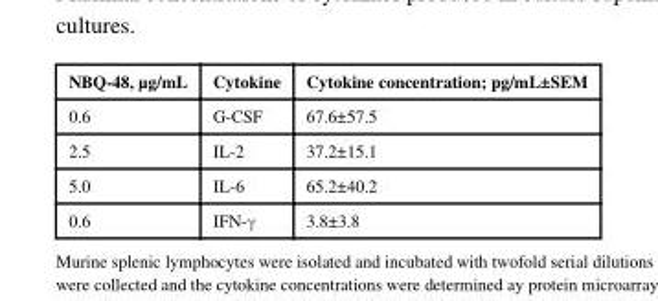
<table><thead><tr><td>NBQ-48, μg/mL</td><td>Cytokine</td><td>Cytokine concentration; pg/mL±SEM</td></tr></thead><tbody><tr><td>0.6</td><td>G-CSF</td><td>67.6±57.5</td></tr><tr><td>2.5</td><td>IL-2</td><td>37.2±15.1</td></tr><tr><td>5.0</td><td>IL-6</td><td>65.2±40.2</td></tr><tr><td>0.6</td><td>IFN-γ</td><td>3.8±3.8</td></tr></tbody></table>